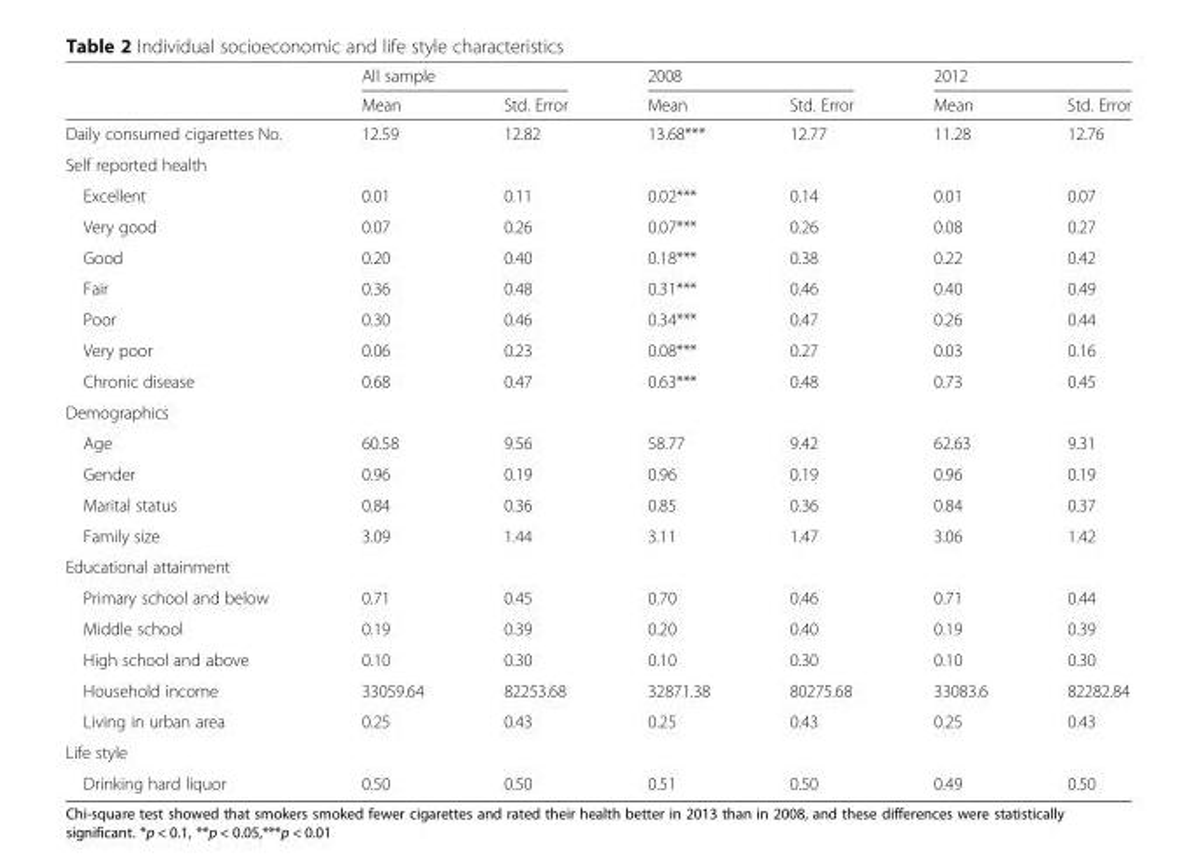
<table><thead><tr><td rowspan="2"></td><td colspan="2">All sample</td><td colspan="2">2008</td><td colspan="2">2012</td></tr><tr><td>Mean</td><td>Std. Error</td><td>Mean</td><td>Std. Error</td><td>Mean</td><td>Std. Error</td></tr></thead><tbody><tr><td>Daily consumed cigarettes No.</td><td>12.59</td><td>12.82</td><td>13.68***</td><td>12.77</td><td>11.28</td><td>12.76</td></tr><tr><td colspan="7">Self reported health</td></tr><tr><td>Excellent</td><td>0.01</td><td>0.11</td><td>0.02***</td><td>0.14</td><td>0.01</td><td>0.07</td></tr><tr><td>Very good</td><td>0.07</td><td>0.26</td><td>0.07***</td><td>0.26</td><td>0.08</td><td>0.27</td></tr><tr><td>Good</td><td>0.20</td><td>0.40</td><td>0.18***</td><td>0.38</td><td>0.22</td><td>0.42</td></tr><tr><td>Fair</td><td>0.36</td><td>0.48</td><td>0.31***</td><td>0.46</td><td>0.40</td><td>0.49</td></tr><tr><td>Poor</td><td>0.30</td><td>0.46</td><td>0.34***</td><td>0.47</td><td>0.26</td><td>0.44</td></tr><tr><td>Very poor</td><td>0.06</td><td>0.23</td><td>0.08***</td><td>0.27</td><td>0.03</td><td>0.16</td></tr><tr><td>Chronic disease</td><td>0.68</td><td>0.47</td><td>0.63***</td><td>0.48</td><td>0.73</td><td>0.45</td></tr><tr><td colspan="7">Demographics</td></tr><tr><td>Age</td><td>60.58</td><td>9.56</td><td>58.77</td><td>9.42</td><td>62.63</td><td>9.31</td></tr><tr><td>Gender</td><td>0.96</td><td>0.19</td><td>0.96</td><td>0.19</td><td>0.96</td><td>0.19</td></tr><tr><td>Marital status</td><td>0.84</td><td>0.36</td><td>0.85</td><td>0.36</td><td>0.84</td><td>0.37</td></tr><tr><td>Family size</td><td>3.09</td><td>1.44</td><td>3.11</td><td>1.47</td><td>3.06</td><td>1.42</td></tr><tr><td colspan="7">Educational attainment</td></tr><tr><td>Primary school and below</td><td>0.71</td><td>0.45</td><td>0.70</td><td>0.46</td><td>0.71</td><td>0.44</td></tr><tr><td>Middle school</td><td>0.19</td><td>0.39</td><td>0.20</td><td>0.40</td><td>0.19</td><td>0.39</td></tr><tr><td>High school and above</td><td>0.10</td><td>0.30</td><td>0.10</td><td>0.30</td><td>0.10</td><td>0.30</td></tr><tr><td>Household income</td><td>33059.64</td><td>82253.68</td><td>32871.38</td><td>80275.68</td><td>33083.6</td><td>82282.84</td></tr><tr><td>Living in urban area</td><td>0.25</td><td>0.43</td><td>0.25</td><td>0.43</td><td>0.25</td><td>0.43</td></tr><tr><td colspan="7">Life style</td></tr><tr><td>Drinking hard liquor</td><td>0.50</td><td>0.50</td><td>0.51</td><td>0.50</td><td>0.49</td><td>0.50</td></tr></tbody></table>